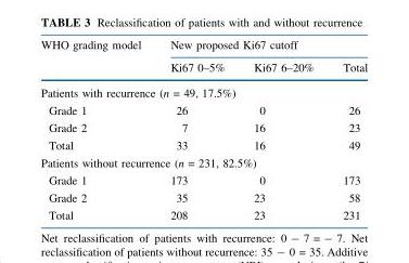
<table><thead><tr><td rowspan="2">WHO grading model</td><td colspan="3">New proposed Ki67 cutoff</td></tr><tr><td>Ki67 0–5%</td><td>Ki67 6–20%</td><td>Total</td></tr></thead><tbody><tr><td colspan="4">Patients with recurrence (n = 49, 17.5%)</td></tr><tr><td>Grade 1</td><td>26</td><td>0</td><td>26</td></tr><tr><td>Grade 2</td><td>7</td><td>16</td><td>23</td></tr><tr><td>Total</td><td>33</td><td>16</td><td>49</td></tr><tr><td colspan="4">Patients without recurrence (n = 231, 82.5%)</td></tr><tr><td>Grade 1</td><td>173</td><td>0</td><td>173</td></tr><tr><td>Grade 2</td><td>35</td><td>23</td><td>58</td></tr><tr><td>Total</td><td>208</td><td>23</td><td>231</td></tr></tbody></table>